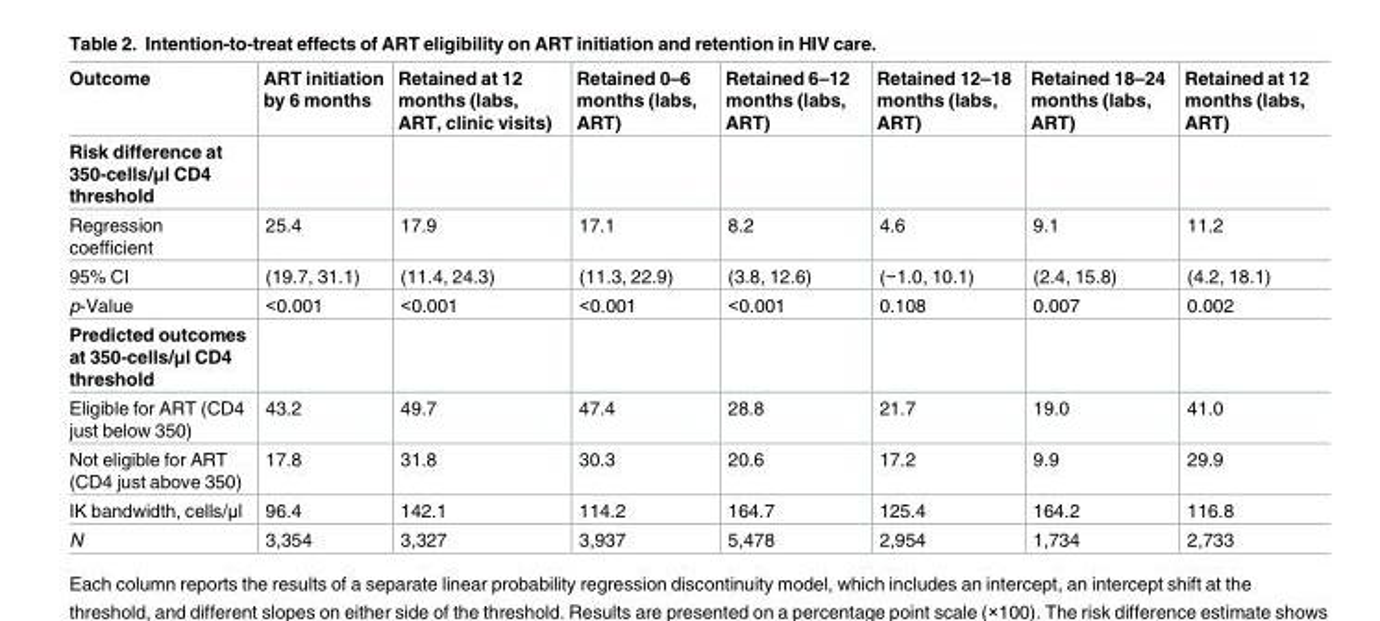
<table><thead><tr><td>Outcome</td><td>ART initiation by 6 months</td><td>Retained at 12 months (labs, ART, clinic visits)</td><td>Retained 0–6 months (labs, ART)</td><td>Retained 6–12 months (labs, ART)</td><td>Retained 12–18 months (labs, ART)</td><td>Retained 18–24 months (labs, ART)</td><td>Retained at 12 months (labs, ART)</td></tr></thead><tbody><tr><td colspan="8">Risk difference at 350-cells/μl CD4 threshold</td></tr><tr><td>Regression coefficient</td><td>25.4</td><td>17.9</td><td>17.1</td><td>8.2</td><td>4.6</td><td>9.1</td><td>11.2</td></tr><tr><td>95% CI</td><td>(19.7, 31.1)</td><td>(11.4, 24.3)</td><td>(11.3, 22.9)</td><td>(3.8, 12.6)</td><td>(−1.0, 10.1)</td><td>(2.4, 15.8)</td><td>(4.2, 18.1)</td></tr><tr><td>p-Value</td><td>&lt;0.001</td><td>&lt;0.001</td><td>&lt;0.001</td><td>&lt;0.001</td><td>0.108</td><td>0.007</td><td>0.002</td></tr><tr><td colspan="8">Predicted outcomes at 350-cells/μl CD4 threshold</td></tr><tr><td>Eligible for ART (CD4 just below 350)</td><td>43.2</td><td>49.7</td><td>47.4</td><td>28.8</td><td>21.7</td><td>19.0</td><td>41.0</td></tr><tr><td>Not eligible for ART (CD4 just above 350)</td><td>17.8</td><td>31.8</td><td>30.3</td><td>20.6</td><td>17.2</td><td>9.9</td><td>29.9</td></tr><tr><td>IK bandwidth, cells/μl</td><td>96.4</td><td>142.1</td><td>114.2</td><td>164.7</td><td>125.4</td><td>164.2</td><td>116.8</td></tr><tr><td>N</td><td>3,354</td><td>3,327</td><td>3,937</td><td>5,478</td><td>2,954</td><td>1,734</td><td>2,733</td></tr></tbody></table>